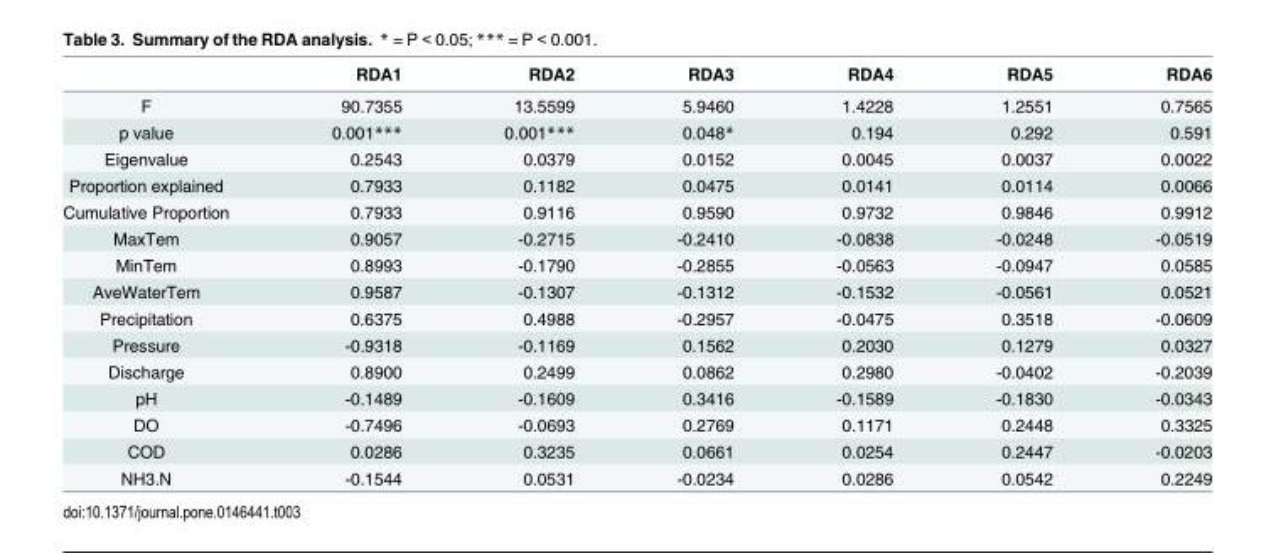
<table><thead><tr><td></td><td>RDA1</td><td>RDA2</td><td>RDA3</td><td>RDA4</td><td>RDA5</td><td>RDA6</td></tr></thead><tbody><tr><td>F</td><td>90.7355</td><td>13.5599</td><td>5.9460</td><td>1.4228</td><td>1.2551</td><td>0.7565</td></tr><tr><td>p value</td><td>0.001***</td><td>0.001***</td><td>0.048*</td><td>0.194</td><td>0.292</td><td>0.591</td></tr><tr><td>Eigenvalue</td><td>0.2543</td><td>0.0379</td><td>0.0152</td><td>0.0045</td><td>0.0037</td><td>0.0022</td></tr><tr><td>Proportion explained</td><td>0.7933</td><td>0.1182</td><td>0.0475</td><td>0.0141</td><td>0.0114</td><td>0.0066</td></tr><tr><td>Cumulative Proportion</td><td>0.7933</td><td>0.9116</td><td>0.9590</td><td>0.9732</td><td>0.9846</td><td>0.9912</td></tr><tr><td>MaxTem</td><td>0.9057</td><td>-0.2715</td><td>-0.2410</td><td>-0.0838</td><td>-0.0248</td><td>-0.0519</td></tr><tr><td>MinTem</td><td>0.8993</td><td>-0.1790</td><td>-0.2855</td><td>-0.0563</td><td>-0.0947</td><td>0.0585</td></tr><tr><td>AveWaterTem</td><td>0.9587</td><td>-0.1307</td><td>-0.1312</td><td>-0.1532</td><td>-0.0561</td><td>0.0521</td></tr><tr><td>Precipitation</td><td>0.6375</td><td>0.4988</td><td>-0.2957</td><td>-0.0475</td><td>0.3518</td><td>-0.0609</td></tr><tr><td>Pressure</td><td>-0.9318</td><td>-0.1169</td><td>0.1562</td><td>0.2030</td><td>0.1279</td><td>0.0327</td></tr><tr><td>Discharge</td><td>0.8900</td><td>0.2499</td><td>0.0862</td><td>0.2980</td><td>-0.0402</td><td>-0.2039</td></tr><tr><td>pH</td><td>-0.1489</td><td>-0.1609</td><td>0.3416</td><td>-0.1589</td><td>-0.1830</td><td>-0.0343</td></tr><tr><td>DO</td><td>-0.7496</td><td>-0.0693</td><td>0.2769</td><td>0.1171</td><td>0.2448</td><td>0.3325</td></tr><tr><td>COD</td><td>0.0286</td><td>0.3235</td><td>0.0661</td><td>0.0254</td><td>0.2447</td><td>-0.0203</td></tr><tr><td>NH3.N</td><td>-0.1544</td><td>0.0531</td><td>-0.0234</td><td>0.0286</td><td>0.0542</td><td>0.2249</td></tr></tbody></table>